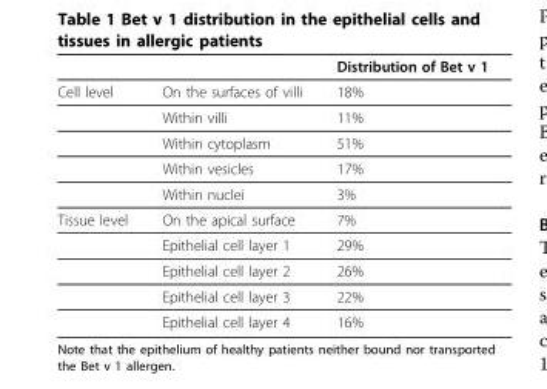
<table><thead><tr><td></td><td></td><td>Distribution of Bet v 1</td></tr></thead><tbody><tr><td rowspan="5">Cell level</td><td>On the surfaces of villi</td><td>18%</td></tr><tr><td>Within villi</td><td>11%</td></tr><tr><td>Within cytoplasm</td><td>51%</td></tr><tr><td>Within vesicles</td><td>17%</td></tr><tr><td>Within nuclei</td><td>3%</td></tr><tr><td rowspan="5">Tissue level</td><td>On the apical surface</td><td>7%</td></tr><tr><td>Epithelial cell layer 1</td><td>29%</td></tr><tr><td>Epithelial cell layer 2</td><td>26%</td></tr><tr><td>Epithelial cell layer 3</td><td>22%</td></tr><tr><td>Epithelial cell layer 4</td><td>16%</td></tr></tbody></table>